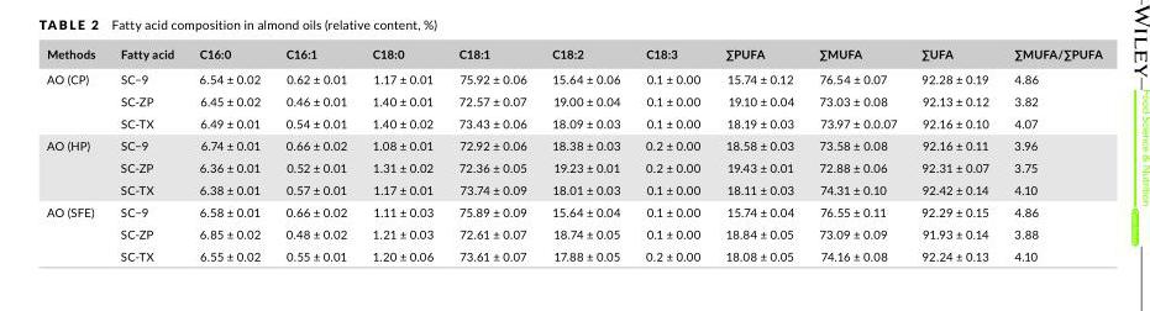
<table><thead><tr><td>Methods</td><td>Fatty acid</td><td>C16:0</td><td>C16:1</td><td>C18:0</td><td>C18:1</td><td>C18:2</td><td>C18:3</td><td>∑PUFA</td><td>∑MUFA</td><td>∑UFA</td><td>∑MUFA/∑PUFA</td></tr></thead><tbody><tr><td rowspan="3">AO (CP)</td><td>SC−9</td><td>6.54 ± 0.02</td><td>0.62 ± 0.01</td><td>1.17 ± 0.01</td><td>75.92 ± 0.06</td><td>15.64 ± 0.06</td><td>0.1 ± 0.00</td><td>15.74 ± 0.12</td><td>76.54 ± 0.07</td><td>92.28 ± 0.19</td><td>4.86</td></tr><tr><td>SC‐ZP</td><td>6.45 ± 0.02</td><td>0.46 ± 0.01</td><td>1.40 ± 0.01</td><td>72.57 ± 0.07</td><td>19.00 ± 0.04</td><td>0.1 ± 0.00</td><td>19.10 ± 0.04</td><td>73.03 ± 0.08</td><td>92.13 ± 0.12</td><td>3.82</td></tr><tr><td>SC‐TX</td><td>6.49 ± 0.01</td><td>0.54 ± 0.01</td><td>1.40 ± 0.02</td><td>73.43 ± 0.06</td><td>18.09 ± 0.03</td><td>0.1 ± 0.00</td><td>18.19 ± 0.03</td><td>73.97 ± 0.0.07</td><td>92.16 ± 0.10</td><td>4.07</td></tr><tr><td rowspan="3">AO (HP)</td><td>SC−9</td><td>6.74 ± 0.01</td><td>0.66 ± 0.02</td><td>1.08 ± 0.01</td><td>72.92 ± 0.06</td><td>18.38 ± 0.03</td><td>0.2 ± 0.00</td><td>18.58 ± 0.03</td><td>73.58 ± 0.08</td><td>92.16 ± 0.11</td><td>3.96</td></tr><tr><td>SC‐ZP</td><td>6.36 ± 0.01</td><td>0.52 ± 0.01</td><td>1.31 ± 0.02</td><td>72.36 ± 0.05</td><td>19.23 ± 0.01</td><td>0.2 ± 0.00</td><td>19.43 ± 0.01</td><td>72.88 ± 0.06</td><td>92.31 ± 0.07</td><td>3.75</td></tr><tr><td>SC‐TX</td><td>6.38 ± 0.01</td><td>0.57 ± 0.01</td><td>1.17 ± 0.01</td><td>73.74 ± 0.09</td><td>18.01 ± 0.03</td><td>0.1 ± 0.00</td><td>18.11 ± 0.03</td><td>74.31 ± 0.10</td><td>92.42 ± 0.14</td><td>4.10</td></tr><tr><td rowspan="3">AO (SFE)</td><td>SC−9</td><td>6.58 ± 0.01</td><td>0.66 ± 0.02</td><td>1.11 ± 0.03</td><td>75.89 ± 0.09</td><td>15.64 ± 0.04</td><td>0.1 ± 0.00</td><td>15.74 ± 0.04</td><td>76.55 ± 0.11</td><td>92.29 ± 0.15</td><td>4.86</td></tr><tr><td>SC‐ZP</td><td>6.85 ± 0.02</td><td>0.48 ± 0.02</td><td>1.21 ± 0.03</td><td>72.61 ± 0.07</td><td>18.74 ± 0.05</td><td>0.1 ± 0.00</td><td>18.84 ± 0.05</td><td>73.09 ± 0.09</td><td>91.93 ± 0.14</td><td>3.88</td></tr><tr><td>SC‐TX</td><td>6.55 ± 0.02</td><td>0.55 ± 0.01</td><td>1.20 ± 0.06</td><td>73.61 ± 0.07</td><td>17.88 ± 0.05</td><td>0.2 ± 0.00</td><td>18.08 ± 0.05</td><td>74.16 ± 0.08</td><td>92.24 ± 0.13</td><td>4.10</td></tr></tbody></table>